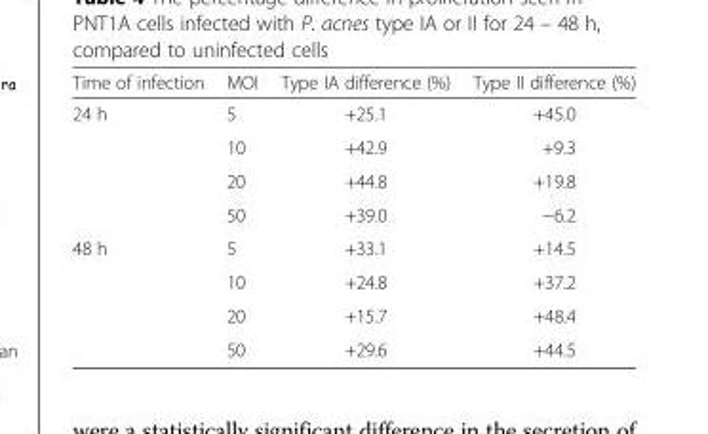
<table><thead><tr><td>Time of infection</td><td>MOI</td><td>Type IA difference (%)</td><td>Type II difference (%)</td></tr></thead><tbody><tr><td rowspan="4">24 h</td><td>5</td><td>+25.1</td><td>+45.0</td></tr><tr><td>10</td><td>+42.9</td><td>+9.3</td></tr><tr><td>20</td><td>+44.8</td><td>+19.8</td></tr><tr><td>50</td><td>+39.0</td><td>−6.2</td></tr><tr><td rowspan="4">48 h</td><td>5</td><td>+33.1</td><td>+14.5</td></tr><tr><td>10</td><td>+24.8</td><td>+37.2</td></tr><tr><td>20</td><td>+15.7</td><td>+48.4</td></tr><tr><td>50</td><td>+29.6</td><td>+44.5</td></tr></tbody></table>